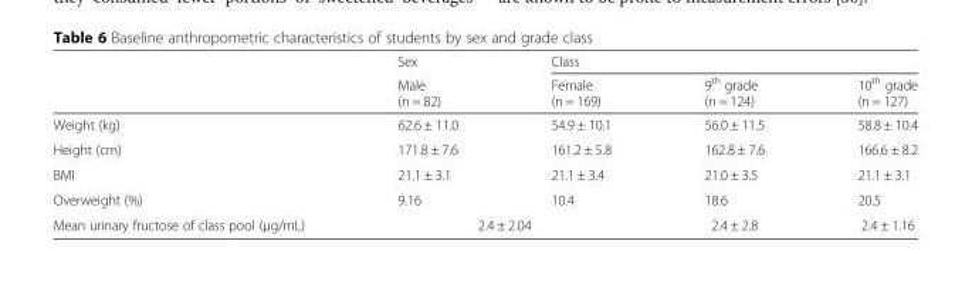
<table><thead><tr><td rowspan="2"></td><td rowspan="2">Sex Male (n = 82)</td><td colspan="3">Class</td></tr><tr><td>Female (n = 169)</td><td>9<sup>th</sup> grade (n = 124)</td><td>10<sup>th</sup> grade (n = 127)</td></tr></thead><tbody><tr><td>Weight (kg)</td><td>62.6 ± 11.0</td><td>54.9 ± 10.1</td><td>56.0 ± 11.5</td><td>58.8 ± 10.4</td></tr><tr><td>Height (cm)</td><td>171.8 ± 7.6</td><td>161.2 ± 5.8</td><td>162.8 ± 7.6</td><td>166.6 ± 8.2</td></tr><tr><td>BMI</td><td>21.1 ± 3.1</td><td>21.1 ± 3.4</td><td>21.0 ± 3.5</td><td>21.1 ± 3.1</td></tr><tr><td>Overweight (%)</td><td>9.16</td><td>10.4</td><td>18.6</td><td>20.5</td></tr><tr><td>Mean urinary fructose of class pool (μg/mL)</td><td colspan="2">2.4 ± 2.04</td><td>2.4 ± 2.8</td><td>2.4 ± 1.16</td></tr></tbody></table>